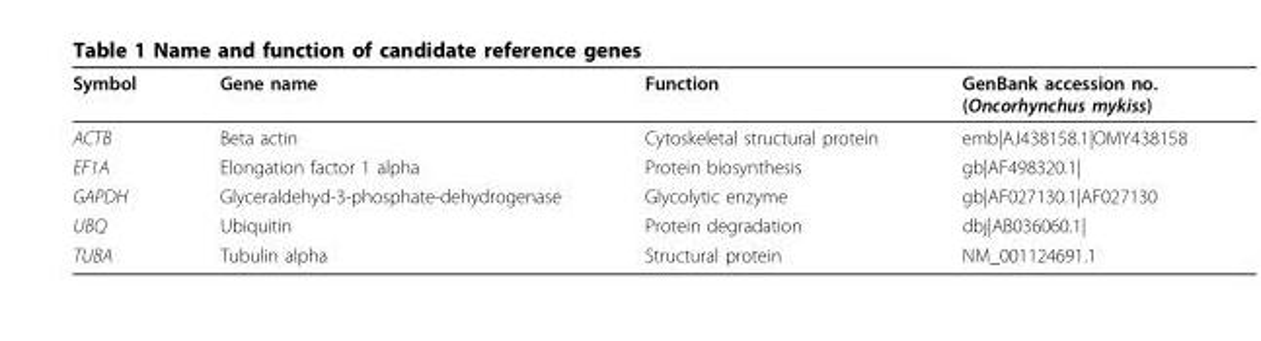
<table><thead><tr><td>Symbol</td><td>Gene name</td><td>Function</td><td>GenBank accession no. (Oncorhynchus mykiss)</td></tr></thead><tbody><tr><td>ACTB</td><td>Beta actin</td><td>Cytoskeletal structural protein</td><td>emb|AJ438158.1|OMY438158</td></tr><tr><td>EF1A</td><td>Elongation factor 1 alpha</td><td>Protein biosynthesis</td><td>gb|AF498320.1|</td></tr><tr><td>GAPDH</td><td>Glyceraldehyd-3-phosphate-dehydrogenase</td><td>Glycolytic enzyme</td><td>gb|AF027130.1|AF027130</td></tr><tr><td>UBQ</td><td>Ubiquitin</td><td>Protein degradation</td><td>dbj|AB036060.1|</td></tr><tr><td>TUBA</td><td>Tubulin alpha</td><td>Structural protein</td><td>NM_001124691.1</td></tr></tbody></table>